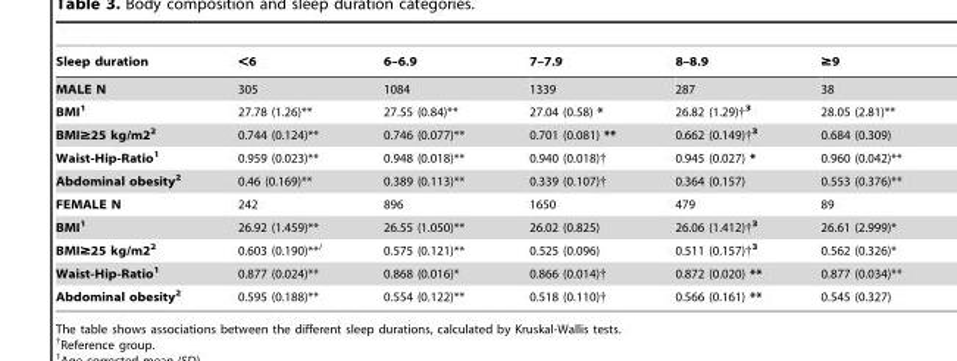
<table><thead><tr><td>Sleep duration</td><td>&lt;6</td><td>6–6.9</td><td>7–7.9</td><td>8–8.9</td><td>≥9</td></tr></thead><tbody><tr><td>MALE N</td><td>305</td><td>1084</td><td>1339</td><td>287</td><td>38</td></tr><tr><td>BMI1</td><td>27.78 (1.26)**</td><td>27.55 (0.84)**</td><td>27.04 (0.58) *</td><td>26.82 (1.29)†3</td><td>28.05 (2.81)**</td></tr><tr><td>BMI≥25 kg/m22</td><td>0.744 (0.124)**</td><td>0.746 (0.077)**</td><td>0.701 (0.081) **</td><td>0.662 (0.149)†3</td><td>0.684 (0.309)</td></tr><tr><td>Waist-Hip-Ratio1</td><td>0.959 (0.023)**</td><td>0.948 (0.018)**</td><td>0.940 (0.018)†</td><td>0.945 (0.027) *</td><td>0.960 (0.042)**</td></tr><tr><td>Abdominal obesity2</td><td>0.46 (0.169)**</td><td>0.389 (0.113)**</td><td>0.339 (0.107)†</td><td>0.364 (0.157)</td><td>0.553 (0.376)**</td></tr><tr><td>FEMALE N</td><td>242</td><td>896</td><td>1650</td><td>479</td><td>89</td></tr><tr><td>BMI1</td><td>26.92 (1.459)**</td><td>26.55 (1.050)**</td><td>26.02 (0.825)</td><td>26.06 (1.412)†3</td><td>26.61 (2.999)*</td></tr><tr><td>BMI≥25 kg/m22</td><td>0.603 (0.190)**<sup>/</sup></td><td>0.575 (0.121)**</td><td>0.525 (0.096)</td><td>0.511 (0.157)†3</td><td>0.562 (0.326)*</td></tr><tr><td>Waist-Hip-Ratio1</td><td>0.877 (0.024)**</td><td>0.868 (0.016)*</td><td>0.866 (0.014)†</td><td>0.872 (0.020) **</td><td>0.877 (0.034)**</td></tr><tr><td>Abdominal obesity2</td><td>0.595 (0.188)**</td><td>0.554 (0.122)**</td><td>0.518 (0.110)†</td><td>0.566 (0.161) **</td><td>0.545 (0.327)</td></tr></tbody></table>